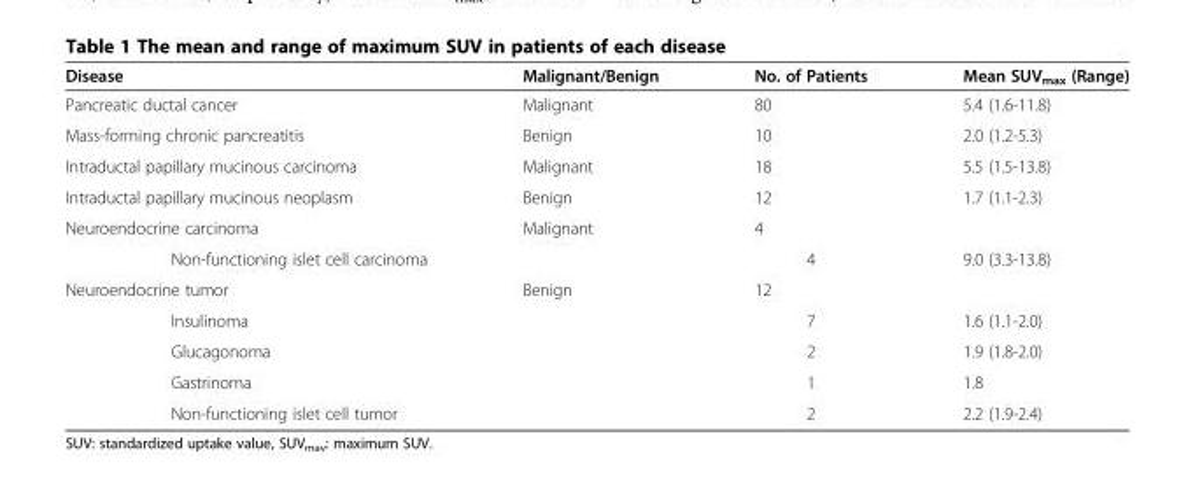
<table><thead><tr><td>Disease</td><td>Malignant/Benign</td><td>No. of Patients</td><td>Mean SUV<sub>max</sub> (Range)</td></tr></thead><tbody><tr><td>Pancreatic ductal cancer</td><td>Malignant</td><td>80</td><td>5.4 (1.6-11.8)</td></tr><tr><td>Mass-forming chronic pancreatitis</td><td>Benign</td><td>10</td><td>2.0 (1.2-5.3)</td></tr><tr><td>Intraductal papillary mucinous carcinoma</td><td>Malignant</td><td>18</td><td>5.5 (1.5-13.8)</td></tr><tr><td>Intraductal papillary mucinous neoplasm</td><td>Benign</td><td>12</td><td>1.7 (1.1-2.3)</td></tr><tr><td>Neuroendocrine carcinoma</td><td>Malignant</td><td>4</td><td></td></tr><tr><td>Non-functioning islet cell carcinoma</td><td></td><td>4</td><td>9.0 (3.3-13.8)</td></tr><tr><td>Neuroendocrine tumor</td><td>Benign</td><td>12</td><td></td></tr><tr><td>Insulinoma</td><td></td><td>7</td><td>1.6 (1.1-2.0)</td></tr><tr><td>Glucagonoma</td><td></td><td>2</td><td>1.9 (1.8-2.0)</td></tr><tr><td>Gastrinoma</td><td></td><td>1</td><td>1.8</td></tr><tr><td>Non-functioning islet cell tumor</td><td></td><td>2</td><td>2.2 (1.9-2.4)</td></tr></tbody></table>